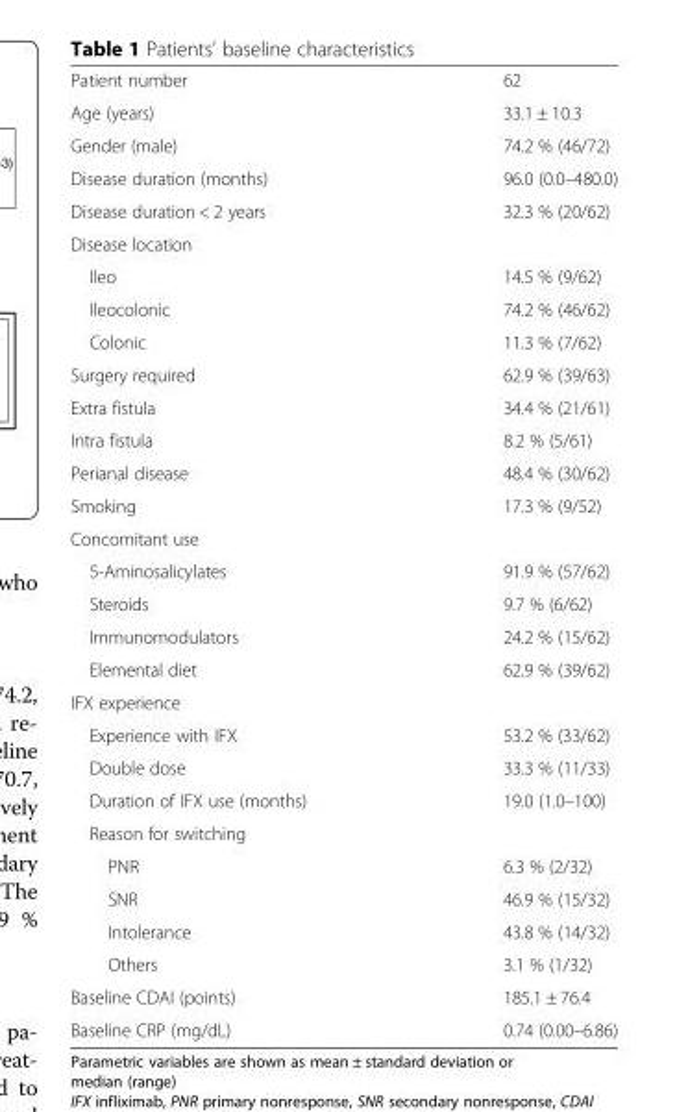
<table><tbody><tr><td>Patient number</td><td>62</td></tr><tr><td>Age (years)</td><td>33.1 ± 10.3</td></tr><tr><td>Gender (male)</td><td>74.2 % (46/72)</td></tr><tr><td>Disease duration (months)</td><td>96.0 (0.0–480.0)</td></tr><tr><td>Disease duration &lt; 2 years</td><td>32.3 % (20/62)</td></tr><tr><td colspan="2">Disease location</td></tr><tr><td>Ileo</td><td>14.5 % (9/62)</td></tr><tr><td>Ileocolonic</td><td>74.2 % (46/62)</td></tr><tr><td>Colonic</td><td>11.3 % (7/62)</td></tr><tr><td>Surgery required</td><td>62.9 % (39/63)</td></tr><tr><td>Extra fistula</td><td>34.4 % (21/61)</td></tr><tr><td>Intra fistula</td><td>8.2 % (5/61)</td></tr><tr><td>Perianal disease</td><td>48.4 % (30/62)</td></tr><tr><td>Smoking</td><td>17.3 % (9/52)</td></tr><tr><td colspan="2">Concomitant use</td></tr><tr><td>5-Aminosalicylates</td><td>91.9 % (57/62)</td></tr><tr><td>Steroids</td><td>9.7 % (6/62)</td></tr><tr><td>Immunomodulators</td><td>24.2 % (15/62)</td></tr><tr><td>Elemental diet</td><td>62.9 % (39/62)</td></tr><tr><td colspan="2">IFX experience</td></tr><tr><td>Experience with IFX</td><td>53.2 % (33/62)</td></tr><tr><td>Double dose</td><td>33.3 % (11/33)</td></tr><tr><td>Duration of IFX use (months)</td><td>19.0 (1.0–100)</td></tr><tr><td colspan="2">Reason for switching</td></tr><tr><td>PNR</td><td>6.3 % (2/32)</td></tr><tr><td>SNR</td><td>46.9 % (15/32)</td></tr><tr><td>Intolerance</td><td>43.8 % (14/32)</td></tr><tr><td>Others</td><td>3.1 % (1/32)</td></tr><tr><td>Baseline CDAI (points)</td><td>185.1 ± 76.4</td></tr><tr><td>Baseline CRP (mg/dL)</td><td>0.74 (0.00–6.86)</td></tr></tbody></table>